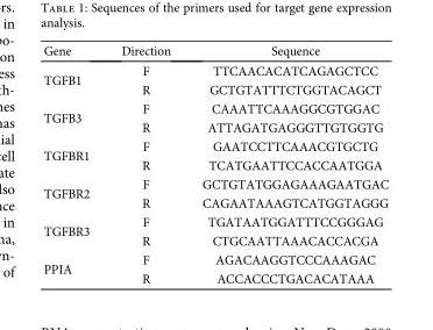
<table><thead><tr><td>Gene</td><td>Direction</td><td>Sequence</td></tr></thead><tbody><tr><td rowspan="2">TGFB1</td><td>F</td><td>TTCAACACATCAGAGCTCC</td></tr><tr><td>R</td><td>GCTGTATTTCTGGTACAGCT</td></tr><tr><td rowspan="2">TGFB3</td><td>F</td><td>CAAATTCAAAGGCGTGGAC</td></tr><tr><td>R</td><td>ATTAGATGAGGGTTGTGGTG</td></tr><tr><td rowspan="2">TGFBR1</td><td>F</td><td>GAATCCTTCAAACGTGCTG</td></tr><tr><td>R</td><td>TCATGAATTCCACCAATGGA</td></tr><tr><td rowspan="2">TGFBR2</td><td>F</td><td>GCTGTATGGAGAAAGAATGAC</td></tr><tr><td>R</td><td>CAGAATAAAGTCATGGTAGGG</td></tr><tr><td rowspan="2">TGFBR3</td><td>F</td><td>TGATAATGGATTTCCGGGAG</td></tr><tr><td>R</td><td>CTGCAATTAAACACCACGA</td></tr><tr><td rowspan="2">PPIA</td><td>F</td><td>AGACAAGGTCCCAAAGAC</td></tr><tr><td>R</td><td>ACCACCCTGACACATAAA</td></tr></tbody></table>